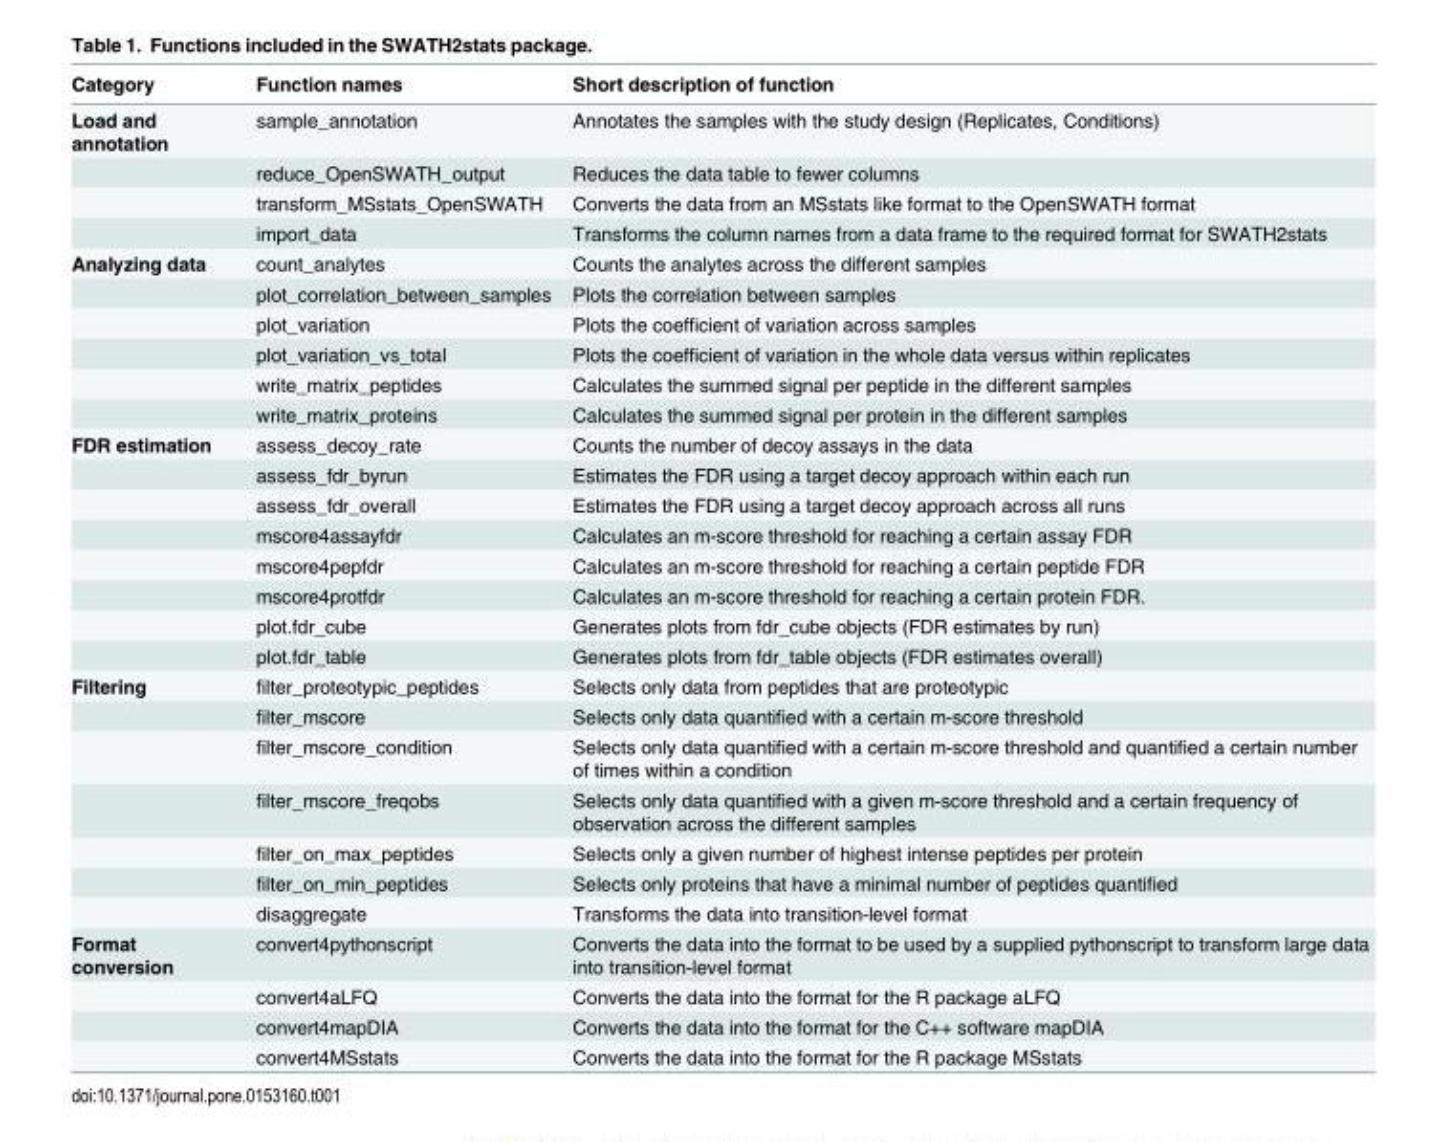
<table><thead><tr><td>Category</td><td>Function names</td><td>Short description of function</td></tr></thead><tbody><tr><td rowspan="4">Load and annotation</td><td>sample_annotation</td><td>Annotates the samples with the study design (Replicates, Conditions)</td></tr><tr><td>reduce_OpenSWATH_output</td><td>Reduces the data table to fewer columns</td></tr><tr><td>transform_MSstats_OpenSWATH</td><td>Converts the data from an MSstats like format to the OpenSWATH format</td></tr><tr><td>import_data</td><td>Transforms the column names from a data frame to the required format for SWATH2stats</td></tr><tr><td rowspan="6">Analyzing data</td><td>count_analytes</td><td>Counts the analytes across the different samples</td></tr><tr><td>plot_correlation_between_samples</td><td>Plots the correlation between samples</td></tr><tr><td>plot_variation</td><td>Plots the coefficient of variation across samples</td></tr><tr><td>plot_variation_vs_total</td><td>Plots the coefficient of variation in the whole data versus within replicates</td></tr><tr><td>write_matrix_peptides</td><td>Calculates the summed signal per peptide in the different samples</td></tr><tr><td>write_matrix_proteins</td><td>Calculates the summed signal per protein in the different samples</td></tr><tr><td rowspan="8">FDR estimation</td><td>assess_decoy_rate</td><td>Counts the number of decoy assays in the data</td></tr><tr><td>assess_fdr_byrun</td><td>Estimates the FDR using a target decoy approach within each run</td></tr><tr><td>assess_fdr_overall</td><td>Estimates the FDR using a target decoy approach across all runs</td></tr><tr><td>mscore4assayfdr</td><td>Calculates an m-score threshold for reaching a certain assay FDR</td></tr><tr><td>mscore4pepfdr</td><td>Calculates an m-score threshold for reaching a certain peptide FDR</td></tr><tr><td>mscore4protfdr</td><td>Calculates an m-score threshold for reaching a certain protein FDR.</td></tr><tr><td>plot.fdr_cube</td><td>Generates plots from fdr_cube objects (FDR estimates by run)</td></tr><tr><td>plot.fdr_table</td><td>Generates plots from fdr_table objects (FDR estimates overall)</td></tr><tr><td rowspan="7">Filtering</td><td>filter_proteotypic_peptides</td><td>Selects only data from peptides that are proteotypic</td></tr><tr><td>filter_mscore</td><td>Selects only data quantified with a certain m-score threshold</td></tr><tr><td>filter_mscore_condition</td><td>Selects only data quantified with a certain m-score threshold and quantified a certain number of times within a condition</td></tr><tr><td>filter_mscore_freqobs</td><td>Selects only data quantified with a given m-score threshold and a certain frequency of observation across the different samples</td></tr><tr><td>filter_on_max_peptides</td><td>Selects only a given number of highest intense peptides per protein</td></tr><tr><td>filter_on_min_peptides</td><td>Selects only proteins that have a minimal number of peptides quantified</td></tr><tr><td>disaggregate</td><td>Transforms the data into transition-level format</td></tr><tr><td rowspan="4">Format conversion</td><td>convert4pythonscript</td><td>Converts the data into the format to be used by a supplied pythonscript to transform large data into transition-level format</td></tr><tr><td>convert4aLFQ</td><td>Converts the data into the format for the R package aLFQ</td></tr><tr><td>convert4mapDIA</td><td>Converts the data into the format for the C++ software mapDIA</td></tr><tr><td>convert4MSstats</td><td>Converts the data into the format for the R package MSstats</td></tr></tbody></table>